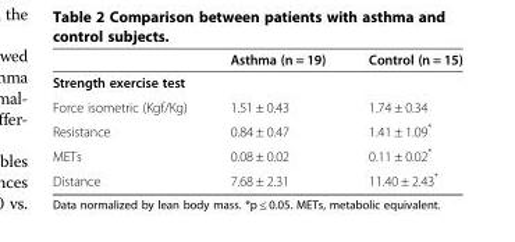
<table><thead><tr><td></td><td>Asthma (n = 19)</td><td>Control (n = 15)</td></tr></thead><tbody><tr><td colspan="3">Strength exercise test</td></tr><tr><td>Force isometric (Kgf/Kg)</td><td>1.51 ± 0.43</td><td>1.74 ± 0.34</td></tr><tr><td>Resistance</td><td>0.84 ± 0.47</td><td>1.41 ± 1.09*</td></tr><tr><td>METs</td><td>0.08 ± 0.02</td><td>0.11 ± 0.02*</td></tr><tr><td>Distance</td><td>7.68 ± 2.31</td><td>11.40 ± 2.43*</td></tr></tbody></table>